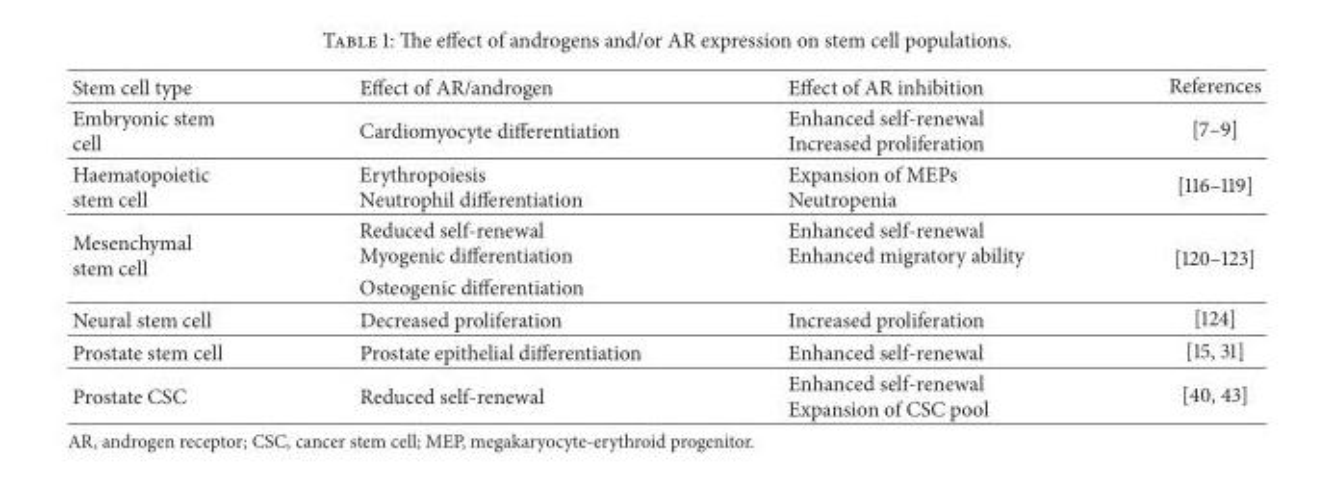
<table><thead><tr><td>Stem cell type</td><td>Effect of AR/androgen</td><td>Effect of AR inhibition</td><td>References</td></tr></thead><tbody><tr><td>Embryonic stem cell</td><td>Cardiomyocyte differentiation</td><td>Enhanced self-renewal Increased proliferation</td><td>[7–9]</td></tr><tr><td>Haematopoietic stem cell</td><td>Erythropoiesis Neutrophil differentiation</td><td>Expansion of MEPs Neutropenia</td><td>[116–119]</td></tr><tr><td rowspan="2">Mesenchymal stem cell</td><td>Reduced self-renewal Myogenic differentiation</td><td>Enhanced self-renewal Enhanced migratory ability</td><td rowspan="2">[120–123]</td></tr><tr><td>Osteogenic differentiation</td><td></td></tr><tr><td>Neural stem cell</td><td>Decreased proliferation</td><td>Increased proliferation</td><td>[124]</td></tr><tr><td>Prostate stem cell</td><td>Prostate epithelial differentiation</td><td>Enhanced self-renewal</td><td>[15, 31]</td></tr><tr><td>Prostate CSC</td><td>Reduced self-renewal</td><td>Enhanced self-renewal Expansion of CSC pool</td><td>[40, 43]</td></tr></tbody></table>